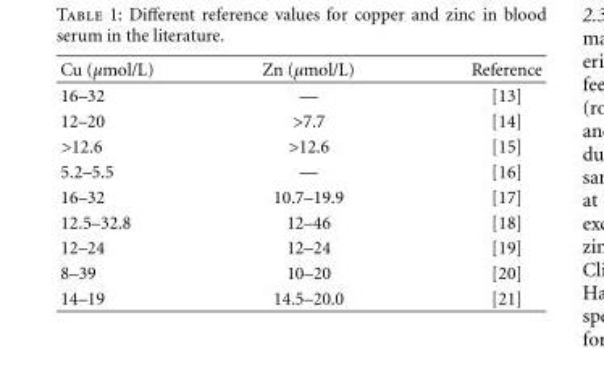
<table><thead><tr><td>Cu (μmol/L)</td><td>Zn (μmol/L)</td><td>Reference</td></tr></thead><tbody><tr><td>16–32</td><td>—</td><td>[13]</td></tr><tr><td>12–20</td><td>&gt;7.7</td><td>[14]</td></tr><tr><td>&gt;12.6</td><td>&gt;12.6</td><td>[15]</td></tr><tr><td>5.2–5.5</td><td>—</td><td>[16]</td></tr><tr><td>16–32</td><td>10.7–19.9</td><td>[17]</td></tr><tr><td>12.5–32.8</td><td>12–46</td><td>[18]</td></tr><tr><td>12–24</td><td>12–24</td><td>[19]</td></tr><tr><td>8–39</td><td>10–20</td><td>[20]</td></tr><tr><td>14–19</td><td>14.5–20.0</td><td>[21]</td></tr></tbody></table>